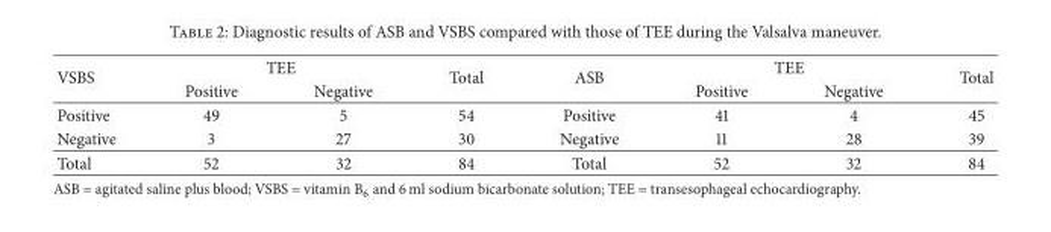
<table><thead><tr><td rowspan="2">VSBS</td><td colspan="2">TEE</td><td rowspan="2">Total</td><td rowspan="2">ASB</td><td colspan="2">TEE</td><td rowspan="2">Total</td></tr><tr><td>Positive</td><td>Negative</td><td>Positive</td><td>Negative</td></tr></thead><tbody><tr><td>Positive</td><td>49</td><td>5</td><td>54</td><td>Positive</td><td>41</td><td>4</td><td>45</td></tr><tr><td>Negative</td><td>3</td><td>27</td><td>30</td><td>Negative</td><td>11</td><td>28</td><td>39</td></tr><tr><td>Total</td><td>52</td><td>32</td><td>84</td><td>Total</td><td>52</td><td>32</td><td>84</td></tr></tbody></table>